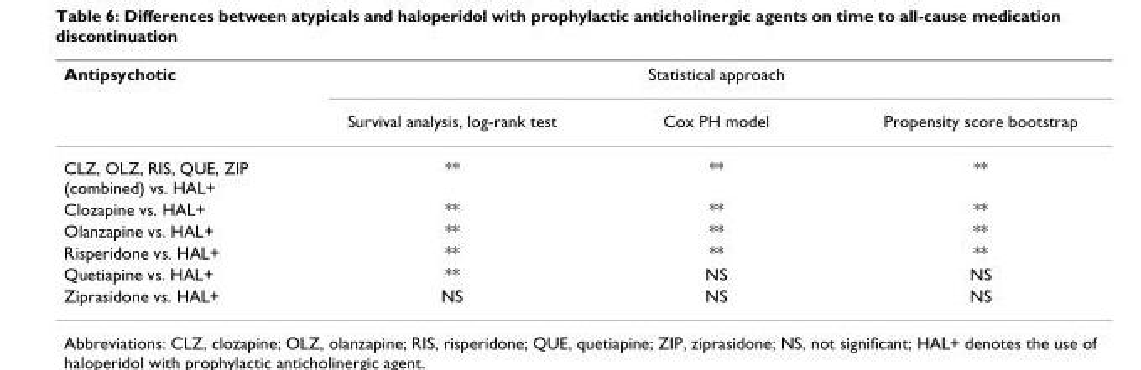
<table><thead><tr><td rowspan="2">Antipsychotic</td><td colspan="3">Statistical approach</td></tr><tr><td>Survival analysis, log-rank test</td><td>Cox PH model</td><td>Propensity score bootstrap</td></tr></thead><tbody><tr><td>CLZ, OLZ, RIS, QUE, ZIP (combined) vs. HAL+</td><td>**</td><td>**</td><td>**</td></tr><tr><td>Clozapine vs. HAL+</td><td>**</td><td>**</td><td>**</td></tr><tr><td>Olanzapine vs. HAL+</td><td>**</td><td>**</td><td>**</td></tr><tr><td>Risperidone vs. HAL+</td><td>**</td><td>**</td><td>**</td></tr><tr><td>Quetiapine vs. HAL+</td><td>**</td><td>NS</td><td>NS</td></tr><tr><td>Ziprasidone vs. HAL+</td><td>NS</td><td>NS</td><td>NS</td></tr></tbody></table>